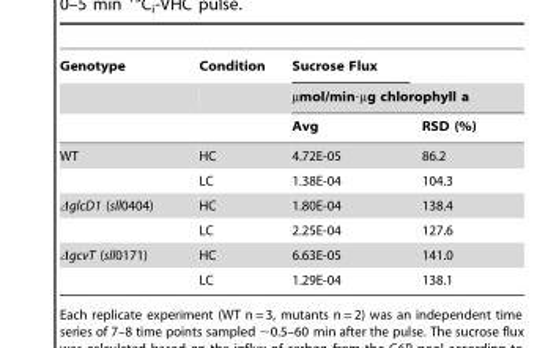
<table><thead><tr><td rowspan="3">Genotype</td><td rowspan="3">Condition</td><td>Sucrose Flux</td><td></td></tr><tr><td colspan="2">µmol/min·µg chlorophyll a</td></tr><tr><td>Avg</td><td>RSD (%)</td></tr></thead><tbody><tr><td rowspan="2">WT</td><td>HC</td><td>4.72E-05</td><td>86.2</td></tr><tr><td>LC</td><td>1.38E-04</td><td>104.3</td></tr><tr><td rowspan="2">ΔglcD1 (sll0404)</td><td>HC</td><td>1.80E-04</td><td>138.4</td></tr><tr><td>LC</td><td>2.25E-04</td><td>127.6</td></tr><tr><td rowspan="2">ΔgcvT (sll0171)</td><td>HC</td><td>6.63E-05</td><td>141.0</td></tr><tr><td>LC</td><td>1.29E-04</td><td>138.1</td></tr></tbody></table>